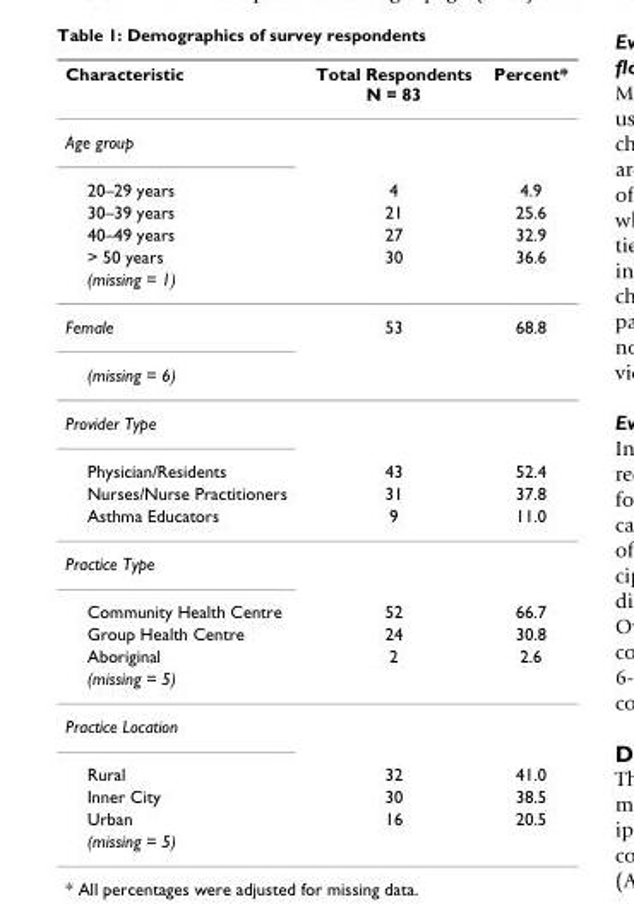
<table><thead><tr><td>Characteristic</td><td>Total Respondents N = 83</td><td>Percent*</td></tr></thead><tbody><tr><td colspan="3">Age group</td></tr><tr><td>20–29 years</td><td>4</td><td>4.9</td></tr><tr><td>30–39 years</td><td>21</td><td>25.6</td></tr><tr><td>40–49 years</td><td>27</td><td>32.9</td></tr><tr><td>&gt; 50 years</td><td>30</td><td>36.6</td></tr><tr><td colspan="3">(missing = 1)</td></tr><tr><td>Female</td><td>53</td><td>68.8</td></tr><tr><td colspan="3">(missing = 6)</td></tr><tr><td colspan="3">Provider Type</td></tr><tr><td>Physician/Residents</td><td>43</td><td>52.4</td></tr><tr><td>Nurses/Nurse Practitioners</td><td>31</td><td>37.8</td></tr><tr><td>Asthma Educators</td><td>9</td><td>11.0</td></tr><tr><td colspan="3">Practice Type</td></tr><tr><td>Community Health Centre</td><td>52</td><td>66.7</td></tr><tr><td>Group Health Centre</td><td>24</td><td>30.8</td></tr><tr><td>Aboriginal</td><td>2</td><td>2.6</td></tr><tr><td colspan="3">(missing = 5)</td></tr><tr><td colspan="3">Practice Location</td></tr><tr><td>Rural</td><td>32</td><td>41.0</td></tr><tr><td>Inner City</td><td>30</td><td>38.5</td></tr><tr><td>Urban</td><td>16</td><td>20.5</td></tr><tr><td>(missing = 5)</td><td></td><td></td></tr></tbody></table>